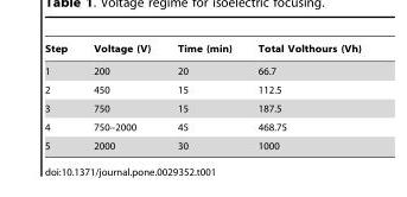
<table><thead><tr><td>Step</td><td>Voltage (V)</td><td>Time (min)</td><td>Total Volthours (Vh)</td></tr></thead><tbody><tr><td>1</td><td>200</td><td>20</td><td>66.7</td></tr><tr><td>2</td><td>450</td><td>15</td><td>112.5</td></tr><tr><td>3</td><td>750</td><td>15</td><td>187.5</td></tr><tr><td>4</td><td>750–2000</td><td>45</td><td>468.75</td></tr><tr><td>5</td><td>2000</td><td>30</td><td>1000</td></tr></tbody></table>